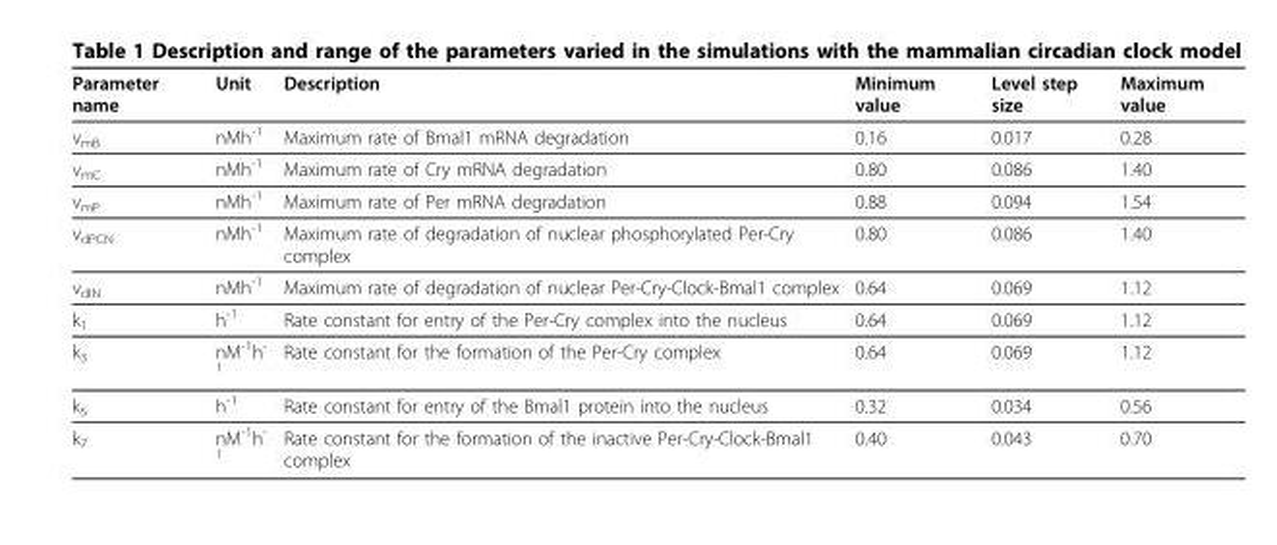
<table><thead><tr><td>Parameter name</td><td>Unit</td><td>Description</td><td>Minimum value</td><td>Level step size</td><td>Maximum value</td></tr></thead><tbody><tr><td>v<sub>mB</sub></td><td>nMh<sup>-1</sup></td><td>Maximum rate of Bmal1 mRNA degradation</td><td>0.16</td><td>0.017</td><td>0.28</td></tr><tr><td>v<sub>mC</sub></td><td>nMh<sup>-1</sup></td><td>Maximum rate of Cry mRNA degradation</td><td>0.80</td><td>0.086</td><td>1.40</td></tr><tr><td>v<sub>mP</sub></td><td>nMh<sup>-1</sup></td><td>Maximum rate of Per mRNA degradation</td><td>0.88</td><td>0.094</td><td>1.54</td></tr><tr><td>v<sub>dPCN</sub></td><td>nMh<sup>-1</sup></td><td>Maximum rate of degradation of nuclear phosphorylated Per-Cry complex</td><td>0.80</td><td>0.086</td><td>1.40</td></tr><tr><td>v<sub>dIN</sub></td><td>nMh<sup>-1</sup></td><td>Maximum rate of degradation of nuclear Per-Cry-Clock-Bmal1 complex</td><td>0.64</td><td>0.069</td><td>1.12</td></tr><tr><td>k<sub>1</sub></td><td>h<sup>-1</sup></td><td>Rate constant for entry of the Per-Cry complex into the nucleus</td><td>0.64</td><td>0.069</td><td>1.12</td></tr><tr><td>k<sub>3</sub></td><td>nM<sup>-1</sup>h<sup>- 1</sup></td><td>Rate constant for the formation of the Per-Cry complex</td><td>0.64</td><td>0.069</td><td>1.12</td></tr><tr><td>k<sub>5</sub></td><td>h<sup>-1</sup></td><td>Rate constant for entry of the Bmal1 protein into the nucleus</td><td>0.32</td><td>0.034</td><td>0.56</td></tr><tr><td>k<sub>7</sub></td><td>nM<sup>-1</sup>h<sup>- 1</sup></td><td>Rate constant for the formation of the inactive Per-Cry-Clock-Bmal1 complex</td><td>0.40</td><td>0.043</td><td>0.70</td></tr></tbody></table>